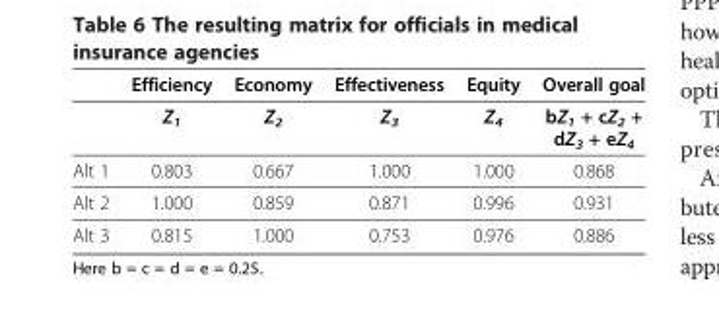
<table><thead><tr><td></td><td>Efficiency</td><td>Economy</td><td>Effectiveness</td><td>Equity</td><td>Overall goal</td></tr></thead><tbody><tr><td></td><td>Z<sub>1</sub></td><td>Z<sub>2</sub></td><td>Z<sub>3</sub></td><td>Z<sub>4</sub></td><td>bZ1 + cZ2 + dZ3 + eZ4</td></tr><tr><td>Alt 1</td><td>0.803</td><td>0.667</td><td>1.000</td><td>1.000</td><td>0.868</td></tr><tr><td>Alt 2</td><td>1.000</td><td>0.859</td><td>0.871</td><td>0.996</td><td>0.931</td></tr><tr><td>Alt 3</td><td>0.815</td><td>1.000</td><td>0.753</td><td>0.976</td><td>0.886</td></tr></tbody></table>